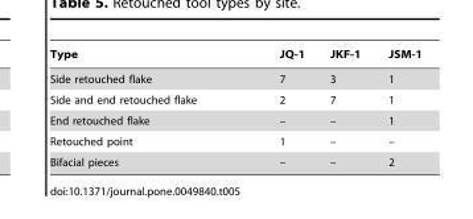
<table><thead><tr><td>Type</td><td>JQ-1</td><td>JKF-1</td><td>JSM-1</td></tr></thead><tbody><tr><td>Side retouched flake</td><td>7</td><td>3</td><td>1</td></tr><tr><td>Side and end retouched flake</td><td>2</td><td>7</td><td>1</td></tr><tr><td>End retouched flake</td><td>–</td><td>–</td><td>1</td></tr><tr><td>Retouched point</td><td>1</td><td>–</td><td>–</td></tr><tr><td>Bifacial pieces</td><td>–</td><td>–</td><td>2</td></tr></tbody></table>